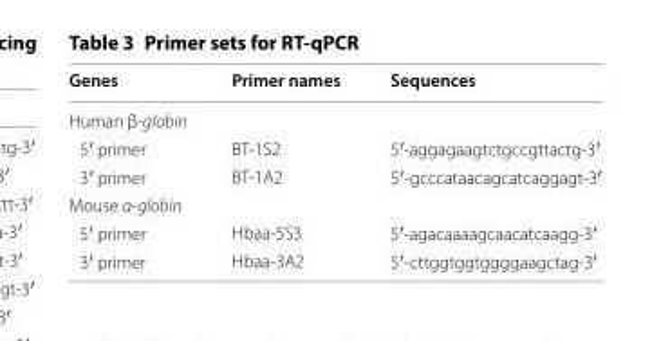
<table><thead><tr><td>Genes</td><td>Primer names</td><td>Sequences</td></tr></thead><tbody><tr><td colspan="3">Human β-globin</td></tr><tr><td>5′ primer</td><td>BT-1S2</td><td>5′-aggagaagtctgccgttactg-3′</td></tr><tr><td>3′ primer</td><td>BT-1A2</td><td>5′-gcccataacagcatcaggagt-3′</td></tr><tr><td colspan="3">Mouse α-globin</td></tr><tr><td>5′ primer</td><td>Hbaa-5S3</td><td>5′-agacaaaagcaacatcaagg-3′</td></tr><tr><td>3′ primer</td><td>Hbaa-3A2</td><td>5′-cttggtggtggggaagctag-3′</td></tr></tbody></table>